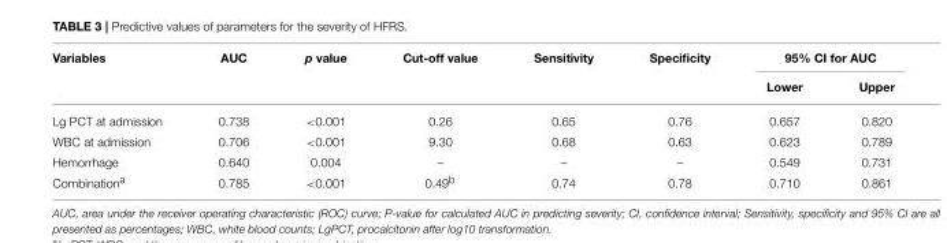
<table><thead><tr><td rowspan="2">Variables</td><td rowspan="2">AUC</td><td rowspan="2">p value</td><td rowspan="2">Cut-off value</td><td rowspan="2">Sensitivity</td><td rowspan="2">Specificity</td><td colspan="2">95% CI for AUC</td></tr><tr><td>Lower</td><td>Upper</td></tr></thead><tbody><tr><td>Lg PCT at admission</td><td>0.738</td><td>&lt;0.001</td><td>0.26</td><td>0.65</td><td>0.76</td><td>0.657</td><td>0.820</td></tr><tr><td>WBC at admission</td><td>0.706</td><td>&lt;0.001</td><td>9.30</td><td>0.68</td><td>0.63</td><td>0.623</td><td>0.789</td></tr><tr><td>Hemorrhage</td><td>0.640</td><td>0.004</td><td>–</td><td>–</td><td>–</td><td>0.549</td><td>0.731</td></tr><tr><td>Combination<sup>a</sup></td><td>0.785</td><td>&lt;0.001</td><td>0.49<sup>b</sup></td><td>0.74</td><td>0.78</td><td>0.710</td><td>0.861</td></tr></tbody></table>